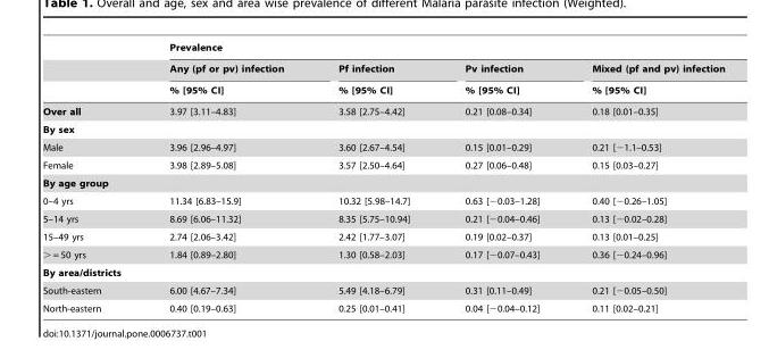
<table><thead><tr><td rowspan="3"></td><td colspan="4">Prevalence</td></tr><tr><td rowspan="2">Any (pf or pv) infection % [95% CI]</td><td rowspan="2">Pf infection % [95% CI]</td><td rowspan="2">Pv infection % [95% CI]</td><td rowspan="2">Mixed (pf and pv) infection % [95% CI]</td></tr><tr></tr></thead><tbody><tr><td>Over all</td><td>3.97 [3.11–4.83]</td><td>3.58 [2.75–4.42]</td><td>0.21 [0.08–0.34]</td><td>0.18 [0.01–0.35]</td></tr><tr><td colspan="5">By sex</td></tr><tr><td>Male</td><td>3.96 [2.96–4.97]</td><td>3.60 [2.67–4.54]</td><td>0.15 [0.01–0.29]</td><td>0.21 [−1.1–0.53]</td></tr><tr><td>Female</td><td>3.98 [2.89–5.08]</td><td>3.57 [2.50–4.64]</td><td>0.27 [0.06–0.48]</td><td>0.15 [0.03–0.27]</td></tr><tr><td colspan="5">By age group</td></tr><tr><td>0–4 yrs</td><td>11.34 [6.83–15.9]</td><td>10.32 [5.98–14.7]</td><td>0.63 [−0.03–1.28]</td><td>0.40 [−0.26–1.05]</td></tr><tr><td>5–14 yrs</td><td>8.69 [6.06–11.32]</td><td>8.35 [5.75–10.94]</td><td>0.21 [−0.04–0.46]</td><td>0.13 [−0.02–0.28]</td></tr><tr><td>15–49 yrs</td><td>2.74 [2.06–3.42]</td><td>2.42 [1.77–3.07]</td><td>0.19 [0.02–0.37]</td><td>0.13 [0.01–0.25]</td></tr><tr><td>&gt; = 50 yrs</td><td>1.84 [0.89–2.80]</td><td>1.30 [0.58–2.03]</td><td>0.17 [−0.07–0.43]</td><td>0.36 [−0.24–0.96]</td></tr><tr><td colspan="5">By area/districts</td></tr><tr><td>South-eastern</td><td>6.00 [4.67–7.34]</td><td>5.49 [4.18–6.79]</td><td>0.31 [0.11–0.49]</td><td>0.21 [−0.05–0.50]</td></tr><tr><td>North-eastern</td><td>0.40 [0.19–0.63]</td><td>0.25 [0.01–0.41]</td><td>0.04 [−0.04–0.12]</td><td>0.11 [0.02–0.21]</td></tr></tbody></table>